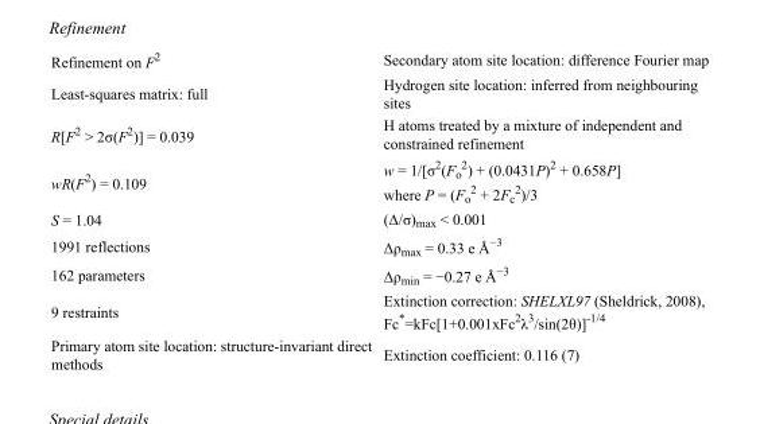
<table><tbody><tr><td>Refinement on F<sup>2</sup></td><td>Secondary atom site location: difference Fourier map</td></tr><tr><td>Least-squares matrix: full</td><td>Hydrogen site location: inferred from neighbouring sites</td></tr><tr><td>R[F<sup>2</sup> &gt; 2σ(F<sup>2</sup>)] = 0.039</td><td>H atoms treated by a mixture of independent and constrained refinement</td></tr><tr><td>wR(F<sup>2</sup>) = 0.109</td><td>w = 1/[σ<sup>2</sup>(F<sub>o</sub> <sup>2</sup>) + (0.0431P)<sup>2</sup> + 0.658P] where P = (F<sub>o</sub> <sup>2</sup> + 2F<sub>c</sub> <sup>2</sup>)/3</td></tr><tr><td>S = 1.04</td><td>(Δ/σ)<sub>max</sub> &lt; 0.001</td></tr><tr><td>1991 reflections</td><td>Δρ<sub>max</sub> = 0.33 e Å<sup>−3</sup></td></tr><tr><td>162 parameters</td><td>Δρ<sub>min</sub> = −0.27 e Å<sup>−3</sup></td></tr><tr><td>9 restraints</td><td>Extinction correction: SHELXL97 (Sheldrick, 2008), Fc*=kFc[1+0.001xFc<sup>2</sup>λ<sup>3</sup>/sin(2θ)]<sup>-1/4</sup></td></tr><tr><td>Primary atom site location: structure-invariant direct methods</td><td>Extinction coefficient: 0.116 (7)</td></tr></tbody></table>